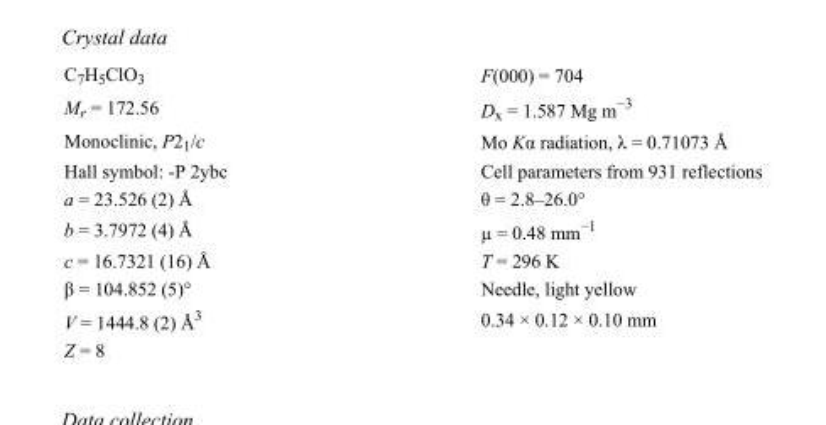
<table><tbody><tr><td>C<sub>7</sub>H<sub>5</sub>ClO<sub>3</sub></td><td>F(000) = 704</td></tr><tr><td>M<sub>r</sub> = 172.56</td><td>D<sub>x</sub> = 1.587 Mg m<sup>−3</sup></td></tr><tr><td>Monoclinic, P2<sub>1</sub>/c</td><td>Mo Kα radiation, λ = 0.71073 Å</td></tr><tr><td>Hall symbol: -P 2ybc</td><td>Cell parameters from 931 reflections</td></tr><tr><td>a = 23.526 (2) Å</td><td>θ = 2.8–26.0°</td></tr><tr><td>b = 3.7972 (4) Å</td><td>µ = 0.48 mm<sup>−1</sup></td></tr><tr><td>c = 16.7321 (16) Å</td><td>T = 296 K</td></tr><tr><td>β = 104.852 (5)°</td><td>Needle, light yellow</td></tr><tr><td>V = 1444.8 (2) Å<sup>3</sup></td><td>0.34 × 0.12 × 0.10 mm</td></tr><tr><td>Z = 8</td><td></td></tr></tbody></table>